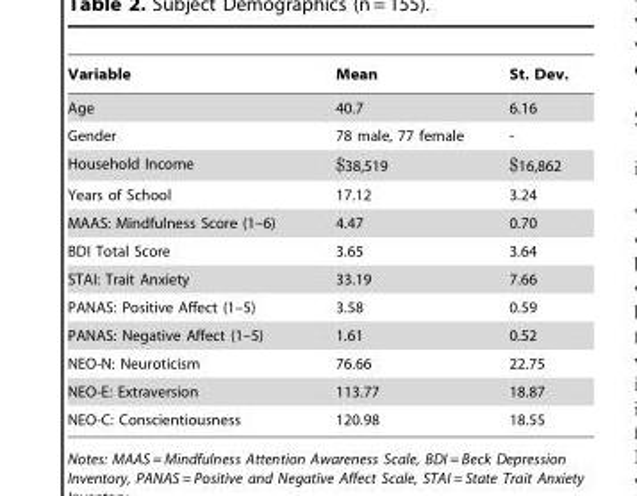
<table><thead><tr><td>Variable</td><td>Mean</td><td>St. Dev.</td></tr></thead><tbody><tr><td>Age</td><td>40.7</td><td>6.16</td></tr><tr><td>Gender</td><td>78 male, 77 female</td><td>-</td></tr><tr><td>Household Income</td><td>$38,519</td><td>$16,862</td></tr><tr><td>Years of School</td><td>17.12</td><td>3.24</td></tr><tr><td>MAAS: Mindfulness Score (1–6)</td><td>4.47</td><td>0.70</td></tr><tr><td>BDI Total Score</td><td>3.65</td><td>3.64</td></tr><tr><td>STAI: Trait Anxiety</td><td>33.19</td><td>7.66</td></tr><tr><td>PANAS: Positive Affect (1–5)</td><td>3.58</td><td>0.59</td></tr><tr><td>PANAS: Negative Affect (1–5)</td><td>1.61</td><td>0.52</td></tr><tr><td>NEO-N: Neuroticism</td><td>76.66</td><td>22.75</td></tr><tr><td>NEO-E: Extraversion</td><td>113.77</td><td>18.87</td></tr><tr><td>NEO-C: Conscientiousness</td><td>120.98</td><td>18.55</td></tr></tbody></table>